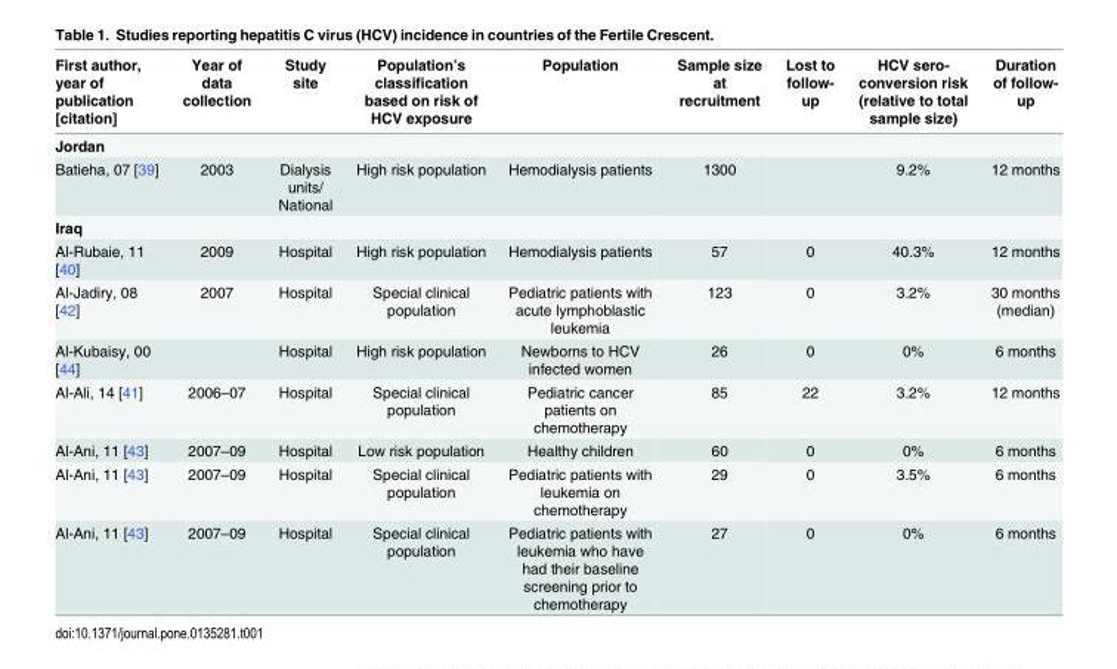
<table><thead><tr><td>First author, year of publication [citation]</td><td>Year of data collection</td><td>Study site</td><td>Population’s classification based on risk of HCV exposure</td><td>Population</td><td>Sample size at recruitment</td><td>Lost to follow- up</td><td>HCV sero- conversion risk (relative to total sample size)</td><td>Duration of follow- up</td></tr></thead><tbody><tr><td colspan="9">Jordan</td></tr><tr><td>Batieha, 07 [39]</td><td>2003</td><td>Dialysis units/ National</td><td>High risk population</td><td>Hemodialysis patients</td><td>1300</td><td></td><td>9.2%</td><td>12 months</td></tr><tr><td colspan="9">Iraq</td></tr><tr><td>Al-Rubaie, 11 [40]</td><td>2009</td><td>Hospital</td><td>High risk population</td><td>Hemodialysis patients</td><td>57</td><td>0</td><td>40.3%</td><td>12 months</td></tr><tr><td>Al-Jadiry, 08 [42]</td><td>2007</td><td>Hospital</td><td>Special clinical population</td><td>Pediatric patients with acute lymphoblastic leukemia</td><td>123</td><td>0</td><td>3.2%</td><td>30 months (median)</td></tr><tr><td>Al-Kubaisy, 00 [44]</td><td></td><td>Hospital</td><td>High risk population</td><td>Newborns to HCV infected women</td><td>26</td><td>0</td><td>0%</td><td>6 months</td></tr><tr><td>Al-Ali, 14 [41]</td><td>2006–07</td><td>Hospital</td><td>Special clinical population</td><td>Pediatric cancer patients on chemotherapy</td><td>85</td><td>22</td><td>3.2%</td><td>12 months</td></tr><tr><td>Al-Ani, 11 [43]</td><td>2007–09</td><td>Hospital</td><td>Low risk population</td><td>Healthy children</td><td>60</td><td>0</td><td>0%</td><td>6 months</td></tr><tr><td>Al-Ani, 11 [43]</td><td>2007–09</td><td>Hospital</td><td>Special clinical population</td><td>Pediatric patients with leukemia on chemotherapy</td><td>29</td><td>0</td><td>3.5%</td><td>6 months</td></tr><tr><td>Al-Ani, 11 [43]</td><td>2007–09</td><td>Hospital</td><td>Special clinical population</td><td>Pediatric patients with leukemia who have had their baseline screening prior to chemotherapy</td><td>27</td><td>0</td><td>0%</td><td>6 months</td></tr></tbody></table>